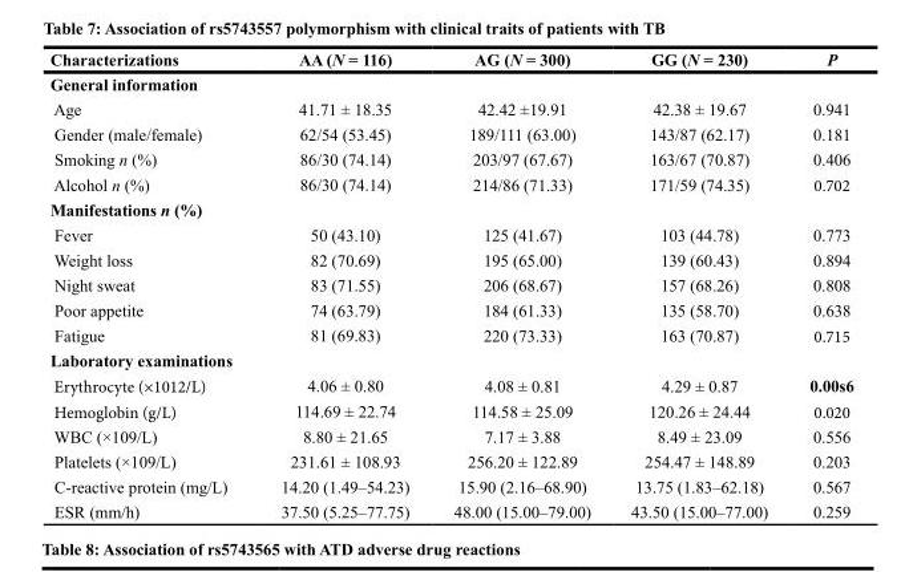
<table><thead><tr><td>Characterizations</td><td>AA (N = 116)</td><td>AG (N = 300)</td><td>GG (N = 230)</td><td>P</td></tr></thead><tbody><tr><td colspan="5">General information</td></tr><tr><td>Age</td><td>41.71 ± 18.35</td><td>42.42 ±19.91</td><td>42.38 ± 19.67</td><td>0.941</td></tr><tr><td>Gender (male/female)</td><td>62/54 (53.45)</td><td>189/111 (63.00)</td><td>143/87 (62.17)</td><td>0.181</td></tr><tr><td>Smoking n (%)</td><td>86/30 (74.14)</td><td>203/97 (67.67)</td><td>163/67 (70.87)</td><td>0.406</td></tr><tr><td>Alcohol n (%)</td><td>86/30 (74.14)</td><td>214/86 (71.33)</td><td>171/59 (74.35)</td><td>0.702</td></tr><tr><td colspan="5">Manifestations n (%)</td></tr><tr><td>Fever</td><td>50 (43.10)</td><td>125 (41.67)</td><td>103 (44.78)</td><td>0.773</td></tr><tr><td>Weight loss</td><td>82 (70.69)</td><td>195 (65.00)</td><td>139 (60.43)</td><td>0.894</td></tr><tr><td>Night sweat</td><td>83 (71.55)</td><td>206 (68.67)</td><td>157 (68.26)</td><td>0.808</td></tr><tr><td>Poor appetite</td><td>74 (63.79)</td><td>184 (61.33)</td><td>135 (58.70)</td><td>0.638</td></tr><tr><td>Fatigue</td><td>81 (69.83)</td><td>220 (73.33)</td><td>163 (70.87)</td><td>0.715</td></tr><tr><td colspan="5">Laboratory examinations</td></tr><tr><td>Erythrocyte (×1012/L)</td><td>4.06 ± 0.80</td><td>4.08 ± 0.81</td><td>4.29 ± 0.87</td><td>0.00s6</td></tr><tr><td>Hemoglobin (g/L)</td><td>114.69 ± 22.74</td><td>114.58 ± 25.09</td><td>120.26 ± 24.44</td><td>0.020</td></tr><tr><td>WBC (×109/L)</td><td>8.80 ± 21.65</td><td>7.17 ± 3.88</td><td>8.49 ± 23.09</td><td>0.556</td></tr><tr><td>Platelets (×109/L)</td><td>231.61 ± 108.93</td><td>256.20 ± 122.89</td><td>254.47 ± 148.89</td><td>0.203</td></tr><tr><td>C-reactive protein (mg/L)</td><td>14.20 (1.49–54.23)</td><td>15.90 (2.16–68.90)</td><td>13.75 (1.83–62.18)</td><td>0.567</td></tr><tr><td>ESR (mm/h)</td><td>37.50 (5.25–77.75)</td><td>48.00 (15.00–79.00)</td><td>43.50 (15.00–77.00)</td><td>0.259</td></tr></tbody></table>